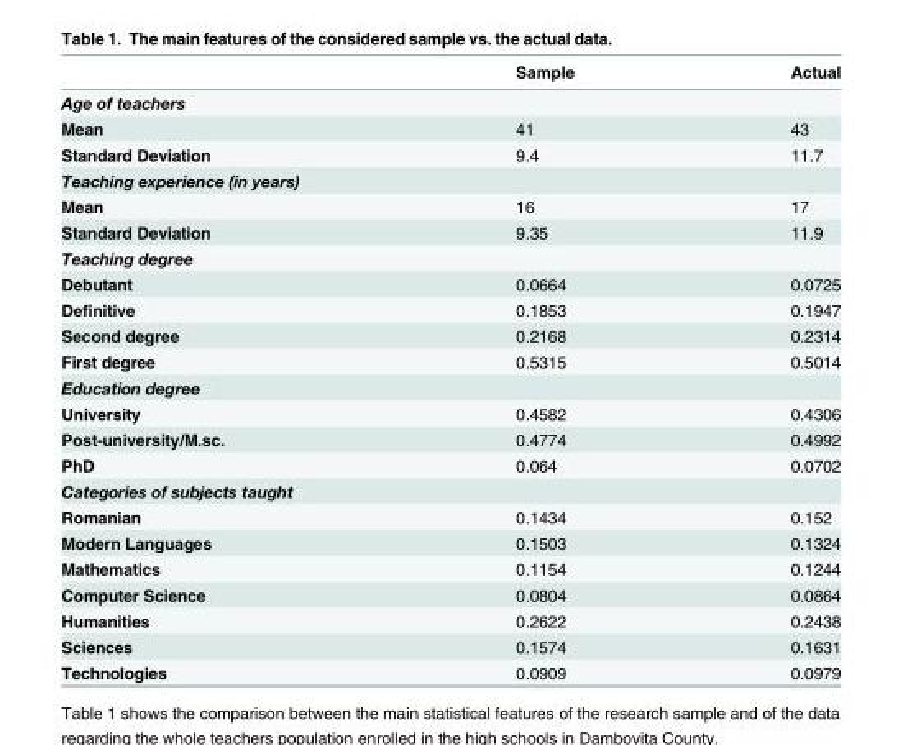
<table><thead><tr><td></td><td>Sample</td><td>Actual</td></tr></thead><tbody><tr><td colspan="3">Age of teachers</td></tr><tr><td>Mean</td><td>41</td><td>43</td></tr><tr><td>Standard Deviation</td><td>9.4</td><td>11.7</td></tr><tr><td colspan="3">Teaching experience (in years)</td></tr><tr><td>Mean</td><td>16</td><td>17</td></tr><tr><td>Standard Deviation</td><td>9.35</td><td>11.9</td></tr><tr><td colspan="3">Teaching degree</td></tr><tr><td>Debutant</td><td>0.0664</td><td>0.0725</td></tr><tr><td>Definitive</td><td>0.1853</td><td>0.1947</td></tr><tr><td>Second degree</td><td>0.2168</td><td>0.2314</td></tr><tr><td>First degree</td><td>0.5315</td><td>0.5014</td></tr><tr><td colspan="3">Education degree</td></tr><tr><td>University</td><td>0.4582</td><td>0.4306</td></tr><tr><td>Post-university/M.sc.</td><td>0.4774</td><td>0.4992</td></tr><tr><td>PhD</td><td>0.064</td><td>0.0702</td></tr><tr><td colspan="3">Categories of subjects taught</td></tr><tr><td>Romanian</td><td>0.1434</td><td>0.152</td></tr><tr><td>Modern Languages</td><td>0.1503</td><td>0.1324</td></tr><tr><td>Mathematics</td><td>0.1154</td><td>0.1244</td></tr><tr><td>Computer Science</td><td>0.0804</td><td>0.0864</td></tr><tr><td>Humanities</td><td>0.2622</td><td>0.2438</td></tr><tr><td>Sciences</td><td>0.1574</td><td>0.1631</td></tr><tr><td>Technologies</td><td>0.0909</td><td>0.0979</td></tr></tbody></table>